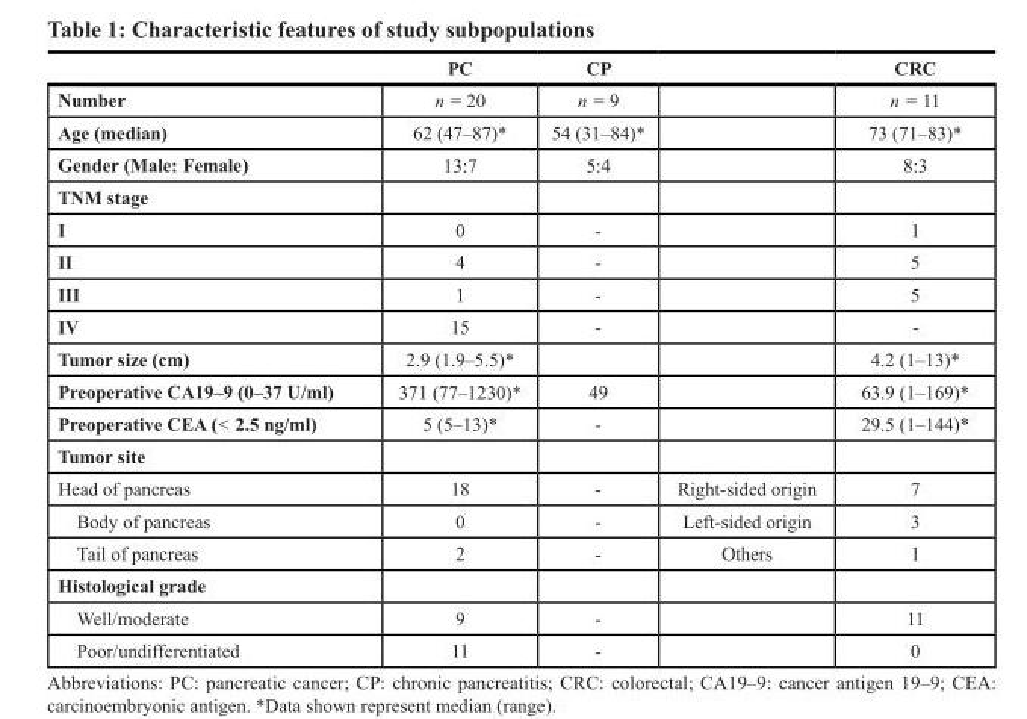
<table><thead><tr><td></td><td>PC</td><td>CP</td><td></td><td>CRC</td></tr></thead><tbody><tr><td>Number</td><td>n = 20</td><td>n = 9</td><td></td><td>n = 11</td></tr><tr><td>Age (median)</td><td>62 (47–87)*</td><td>54 (31–84)*</td><td></td><td>73 (71–83)*</td></tr><tr><td>Gender (Male: Female)</td><td>13:7</td><td>5:4</td><td></td><td>8:3</td></tr><tr><td colspan="5">TNM stage</td></tr><tr><td>I</td><td>0</td><td></td><td></td><td>1</td></tr><tr><td>II</td><td>4</td><td></td><td></td><td>5</td></tr><tr><td>III</td><td>1</td><td></td><td></td><td>5</td></tr><tr><td>IV</td><td>15</td><td></td><td></td><td></td></tr><tr><td>Tumor size (cm)</td><td>2.9 (1.9–5.5)*</td><td></td><td></td><td>4.2 (1–13)*</td></tr><tr><td>Preoperative CA19–9 (0–37 U/ml)</td><td>371 (77–1230)*</td><td>49</td><td></td><td>63.9 (1–169)*</td></tr><tr><td>Preoperative CEA (&lt; 2.5 ng/ml)</td><td>5 (5–13)*</td><td></td><td></td><td>29.5 (1–144)*</td></tr><tr><td colspan="5">Tumor site</td></tr><tr><td>Head of pancreas</td><td>18</td><td></td><td>Rightsided origin</td><td>7</td></tr><tr><td>Body of pancreas</td><td>0</td><td></td><td>Leftsided origin</td><td>3</td></tr><tr><td>Tail of pancreas</td><td>2</td><td></td><td>Others</td><td>1</td></tr><tr><td colspan="5">Histological grade</td></tr><tr><td>Well/moderate</td><td>9</td><td></td><td></td><td>11</td></tr><tr><td>Poor/undifferentiated</td><td>11</td><td></td><td></td><td>0</td></tr></tbody></table>